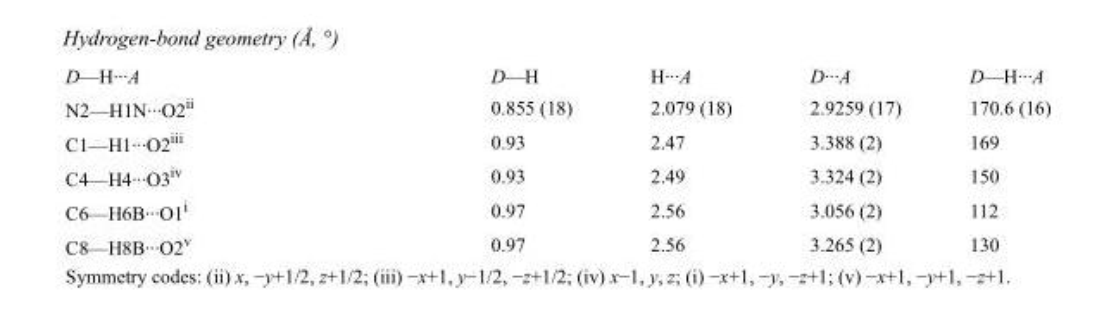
<table><tbody><tr><td>D—H···A</td><td>D—H</td><td>H···A</td><td>D···A</td><td>D—H···A</td></tr><tr><td>N2—H1N···O2<sup>ii</sup></td><td>0.855 (18)</td><td>2.079 (18)</td><td>2.9259 (17)</td><td>170.6 (16)</td></tr><tr><td>C1—H1···O2<sup>iii</sup></td><td>0.93</td><td>2.47</td><td>3.388 (2)</td><td>169</td></tr><tr><td>C4—H4···O3<sup>iv</sup></td><td>0.93</td><td>2.49</td><td>3.324 (2)</td><td>150</td></tr><tr><td>C6—H6B···O1<sup>i</sup></td><td>0.97</td><td>2.56</td><td>3.056 (2)</td><td>112</td></tr><tr><td>C8—H8B···O2<sup>v</sup></td><td>0.97</td><td>2.56</td><td>3.265 (2)</td><td>130</td></tr></tbody></table>